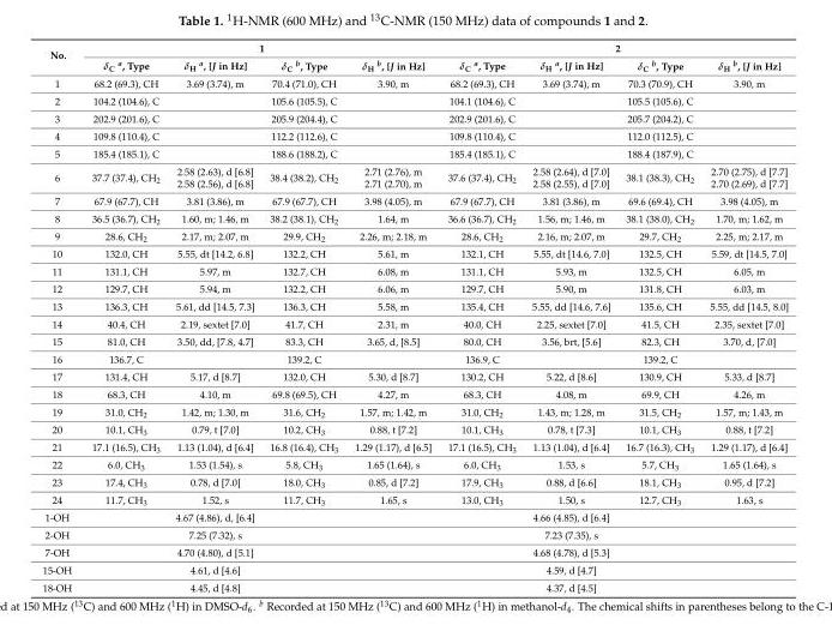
<table><thead><tr><td rowspan="2">No.</td><td colspan="4">1</td><td colspan="4">2</td></tr><tr><td>δ<sub>C</sub> <sup>a</sup>, Type</td><td>δ<sub>H</sub> <sup>a</sup>, [J in Hz]</td><td>δ<sub>C</sub> <sup>b</sup>, Type</td><td>δ<sub>H</sub> <sup>b</sup>, [J in Hz]</td><td>δ<sub>C</sub> <sup>a</sup>, Type</td><td>δ<sub>H</sub> <sup>a</sup>, [J in Hz]</td><td>δ<sub>C</sub> <sup>b</sup>, Type</td><td>δ<sub>H</sub> <sup>b</sup>, [J in Hz]</td></tr></thead><tbody><tr><td>1</td><td>68.2 (69.3), CH</td><td>3.69 (3.74), m</td><td>70.4 (71.0), CH</td><td>3.90, m</td><td>68.2 (69.3), CH</td><td>3.69 (3.74), m</td><td>70.3 (70.9), CH</td><td>3.90, m</td></tr><tr><td>2</td><td>104.2 (104.6), C</td><td></td><td>105.6 (105.5), C</td><td></td><td>104.1 (104.6), C</td><td></td><td>105.5 (105.6), C</td><td></td></tr><tr><td>3</td><td>202.9 (201.6), C</td><td></td><td>205.9 (204.4), C</td><td></td><td>202.9 (201.6), C</td><td></td><td>205.7 (204.2), C</td><td></td></tr><tr><td>4</td><td>109.8 (110.4), C</td><td></td><td>112.2 (112.6), C</td><td></td><td>109.8 (110.4), C</td><td></td><td>112.0 (112.5), C</td><td></td></tr><tr><td>5</td><td>185.4 (185.1), C</td><td></td><td>188.6 (188.2), C</td><td></td><td>185.4 (185.1), C</td><td></td><td>188.4 (187.9), C</td><td></td></tr><tr><td>6</td><td>37.7 (37.4), CH<sub>2</sub></td><td>2.58 (2.63), d [6.8] 2.58 (2.56), d [6.8]</td><td>38.4 (38.2), CH<sub>2</sub></td><td>2.71 (2.76), m 2.71 (2.70), m</td><td>37.6 (37.4), CH<sub>2</sub></td><td>2.58 (2.64), d [7.0] 2.58 (2.55), d [7.0]</td><td>38.1 (38.3), CH<sub>2</sub></td><td>2.70 (2.75), d [7.7] 2.70 (2.69), d [7.7]</td></tr><tr><td>7</td><td>67.9 (67.7), CH</td><td>3.81 (3.86), m</td><td>67.9 (67.7), CH</td><td>3.98 (4.05), m</td><td>67.9 (67.7), CH</td><td>3.81 (3.86), m</td><td>69.6 (69.4), CH</td><td>3.98 (4.05), m</td></tr><tr><td>8</td><td>36.5 (36.7), CH<sub>2</sub></td><td>1.60, m; 1.46, m</td><td>38.2 (38.1), CH<sub>2</sub></td><td>1.64, m</td><td>36.6 (36.7), CH<sub>2</sub></td><td>1.56, m; 1.46, m</td><td>38.1 (38.0), CH<sub>2</sub></td><td>1.70, m; 1.62, m</td></tr><tr><td>9</td><td>28.6, CH<sub>2</sub></td><td>2.17, m; 2.07, m</td><td>29.9, CH<sub>2</sub></td><td>2.26, m; 2.18, m</td><td>28.6, CH<sub>2</sub></td><td>2.16, m; 2.07, m</td><td>29.7, CH<sub>2</sub></td><td>2.25, m; 2.17, m</td></tr><tr><td>10</td><td>132.0, CH</td><td>5.55, dt [14.2, 6.8]</td><td>132.2, CH</td><td>5.61, m</td><td>132.1, CH</td><td>5.55, dt [14.6, 7.0]</td><td>132.5, CH</td><td>5.59, dt [14.5, 7.0]</td></tr><tr><td>11</td><td>131.1, CH</td><td>5.97, m</td><td>132.7, CH</td><td>6.08, m</td><td>131.1, CH</td><td>5.93, m</td><td>132.5, CH</td><td>6.05, m</td></tr><tr><td>12</td><td>129.7, CH</td><td>5.94, m</td><td>132.2, CH</td><td>6.06, m</td><td>129.7, CH</td><td>5.90, m</td><td>131.8, CH</td><td>6.03, m</td></tr><tr><td>13</td><td>136.3, CH</td><td>5.61, dd [14.5, 7.3]</td><td>136.3, CH</td><td>5.58, m</td><td>135.4, CH</td><td>5.55, dd [14.6, 7.6]</td><td>135.6, CH</td><td>5.55, dd [14.5, 8.0]</td></tr><tr><td>14</td><td>40.4, CH</td><td>2.19, sextet [7.0]</td><td>41.7, CH</td><td>2.31, m</td><td>40.0, CH</td><td>2.25, sextet [7.0]</td><td>41.5, CH</td><td>2.35, sextet [7.0]</td></tr><tr><td>15</td><td>81.0, CH</td><td>3.50, dd, [7.8, 4.7]</td><td>83.3, CH</td><td>3.65, d, [8.5]</td><td>80.0, CH</td><td>3.56, brt, [5.6]</td><td>82.3, CH</td><td>3.70, d, [7.0]</td></tr><tr><td>16</td><td>136.7, C</td><td></td><td>139.2, C</td><td></td><td>136.9, C</td><td></td><td>139.2, C</td><td></td></tr><tr><td>17</td><td>131.4, CH</td><td>5.17, d [8.7]</td><td>132.0, CH</td><td>5.30, d [8.7]</td><td>130.2, CH</td><td>5.22, d [8.6]</td><td>130.9, CH</td><td>5.33, d [8.7]</td></tr><tr><td>18</td><td>68.3, CH</td><td>4.10, m</td><td>69.8 (69.5), CH</td><td>4.27, m</td><td>68.3, CH</td><td>4.08, m</td><td>69.9, CH</td><td>4.26, m</td></tr><tr><td>19</td><td>31.0, CH<sub>2</sub></td><td>1.42, m; 1.30, m</td><td>31.6, CH<sub>2</sub></td><td>1.57, m; 1.42, m</td><td>31.0, CH<sub>2</sub></td><td>1.43, m; 1.28, m</td><td>31.5, CH<sub>2</sub></td><td>1.57, m; 1.43, m</td></tr><tr><td>20</td><td>10.1, CH<sub>3</sub></td><td>0.79, t [7.0]</td><td>10.2, CH<sub>3</sub></td><td>0.88, t [7.2]</td><td>10.1, CH<sub>3</sub></td><td>0.78, t [7.3]</td><td>10.1, CH<sub>3</sub></td><td>0.88, t [7.2]</td></tr><tr><td>21</td><td>17.1 (16.5), CH<sub>3</sub></td><td>1.13 (1.04), d [6.4]</td><td>16.8 (16.4), CH<sub>3</sub></td><td>1.29 (1.17), d [6.5]</td><td>17.1 (16.5), CH<sub>3</sub></td><td>1.13 (1.04), d [6.4]</td><td>16.7 (16.3), CH<sub>3</sub></td><td>1.29 (1.17), d [6.4]</td></tr><tr><td>22</td><td>6.0, CH<sub>3</sub></td><td>1.53 (1.54), s</td><td>5.8, CH<sub>3</sub></td><td>1.65 (1.64), s</td><td>6.0, CH<sub>3</sub></td><td>1.53, s</td><td>5.7, CH<sub>3</sub></td><td>1.65 (1.64), s</td></tr><tr><td>23</td><td>17.4, CH<sub>3</sub></td><td>0.78, d [7.0]</td><td>18.0, CH<sub>3</sub></td><td>0.85, d [7.2]</td><td>17.9, CH<sub>3</sub></td><td>0.88, d [6.6]</td><td>18.1, CH<sub>3</sub></td><td>0.95, d [7.2]</td></tr><tr><td>24</td><td>11.7, CH<sub>3</sub></td><td>1.52, s</td><td>11.7, CH<sub>3</sub></td><td>1.65, s</td><td>13.0, CH<sub>3</sub></td><td>1.50, s</td><td>12.7, CH<sub>3</sub></td><td>1.63, s</td></tr><tr><td>1-OH</td><td></td><td>4.67 (4.86), d, [6.4]</td><td></td><td></td><td></td><td>4.66 (4.85), d [6.4]</td><td></td><td></td></tr><tr><td>2-OH</td><td></td><td>7.25 (7.32), s</td><td></td><td></td><td></td><td>7.23 (7.35), s</td><td></td><td></td></tr><tr><td>7-OH</td><td></td><td>4.70 (4.80), d [5.1]</td><td></td><td></td><td></td><td>4.68 (4.78), d [5.3]</td><td></td><td></td></tr><tr><td>15-OH</td><td></td><td>4.61, d [4.6]</td><td></td><td></td><td></td><td>4.59, d [4.7]</td><td></td><td></td></tr><tr><td>18-OH</td><td></td><td>4.45, d [4.8]</td><td></td><td></td><td></td><td>4.37, d [4.5]</td><td></td><td></td></tr></tbody></table>